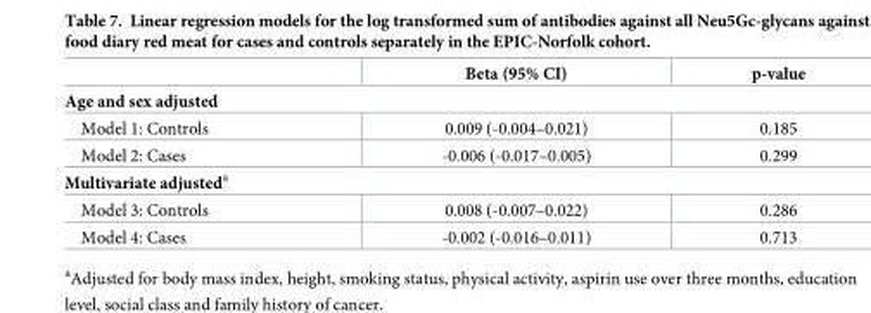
<table><thead><tr><td></td><td>Beta (95% CI)</td><td>p-value</td></tr></thead><tbody><tr><td colspan="3">Age and sex adjusted</td></tr><tr><td>Model 1: Controls</td><td>0.009 (-0.004–0.021)</td><td>0.185</td></tr><tr><td>Model 2: Cases</td><td>-0.006 (-0.017–0.005)</td><td>0.299</td></tr><tr><td colspan="3">Multivariate adjusted<sup>a</sup></td></tr><tr><td>Model 3: Controls</td><td>0.008 (-0.007–0.022)</td><td>0.286</td></tr><tr><td>Model 4: Cases</td><td>-0.002 (-0.016–0.011)</td><td>0.713</td></tr></tbody></table>